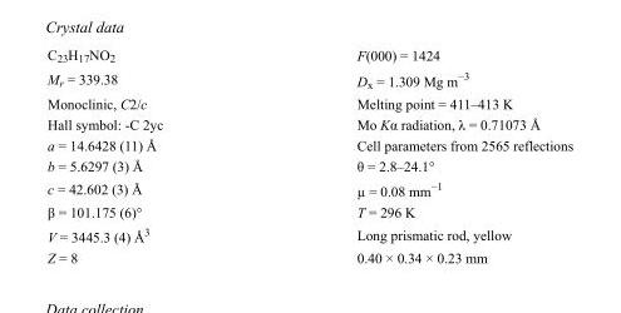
<table><tbody><tr><td>C<sub>23</sub>H<sub>17</sub>NO<sub>2</sub></td><td>F(000) = 1424</td></tr><tr><td>M<sub>r</sub> = 339.38</td><td>D<sub>x</sub> = 1.309 Mg m<sup>−3</sup></td></tr><tr><td>Monoclinic, C2/c</td><td>Melting point = 411–413 K</td></tr><tr><td>Hall symbol: -C 2yc</td><td>Mo Kα radiation, λ = 0.71073 Å</td></tr><tr><td>a = 14.6428 (11) Å</td><td>Cell parameters from 2565 reflections</td></tr><tr><td>b = 5.6297 (3) Å</td><td>θ = 2.8–24.1°</td></tr><tr><td>c = 42.602 (3) Å</td><td>µ = 0.08 mm<sup>−1</sup></td></tr><tr><td>β = 101.175 (6)°</td><td>T = 296 K</td></tr><tr><td>V = 3445.3 (4) Å<sup>3</sup></td><td>Long prismatic rod, yellow</td></tr><tr><td>Z = 8</td><td>0.40 × 0.34 × 0.23 mm</td></tr></tbody></table>